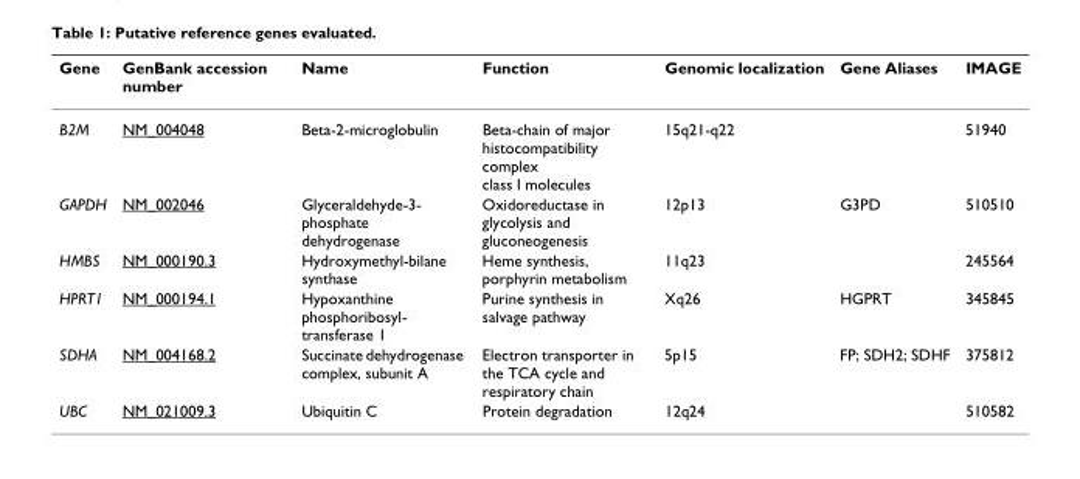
<table><thead><tr><td>Gene</td><td>GenBank accession number</td><td>Name</td><td>Function</td><td>Genomic localization</td><td>Gene Aliases</td><td>IMAGE</td></tr></thead><tbody><tr><td>B2M</td><td>NM_004048</td><td>Beta-2-microglobulin</td><td>Beta-chain of major histocompatibility complex class I molecules</td><td>15q21-q22</td><td></td><td>51940</td></tr><tr><td>GAPDH</td><td>NM_002046</td><td>Glyceraldehyde-3- phosphate dehydrogenase</td><td>Oxidoreductase in glycolysis and gluconeogenesis</td><td>12p13</td><td>G3PD</td><td>510510</td></tr><tr><td>HMBS</td><td>NM_000190.3</td><td>Hydroxymethyl-bilane synthase</td><td>Heme synthesis, porphyrin metabolism</td><td>11q23</td><td></td><td>245564</td></tr><tr><td>HPRT1</td><td>NM_000194.1</td><td>Hypoxanthine phosphoribosyl- transferase 1</td><td>Purine synthesis in salvage pathway</td><td>Xq26</td><td>HGPRT</td><td>345845</td></tr><tr><td>SDHA</td><td>NM_004168.2</td><td>Succinate dehydrogenase complex, subunit A</td><td>Electron transporter in the TCA cycle and respiratory chain</td><td>5p15</td><td>FP; SDH2; SDHF</td><td>375812</td></tr><tr><td>UBC</td><td>NM_021009.3</td><td>Ubiquitin C</td><td>Protein degradation</td><td>12q24</td><td></td><td>510582</td></tr></tbody></table>